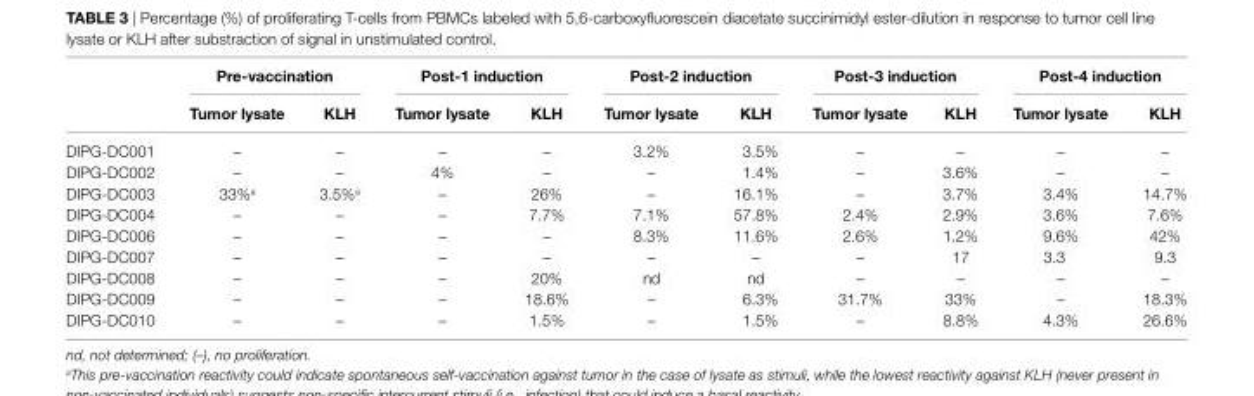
<table><thead><tr><td rowspan="2"></td><td colspan="2">Pre-vaccination</td><td colspan="2">Post-1 induction</td><td colspan="2">Post-2 induction</td><td colspan="2">Post-3 induction</td><td colspan="2">Post-4 induction</td></tr><tr><td>Tumor lysate</td><td>KlH</td><td>Tumor lysate</td><td>KlH</td><td>Tumor lysate</td><td>KlH</td><td>Tumor lysate</td><td>KlH</td><td>Tumor lysate</td><td>KlH</td></tr></thead><tbody><tr><td>DIPG-DC001</td><td>–</td><td>–</td><td>–</td><td>–</td><td>3.2%</td><td>3.5%</td><td>–</td><td>–</td><td>–</td><td>–</td></tr><tr><td>DIPG-DC002</td><td>–</td><td>–</td><td>4%</td><td>–</td><td>–</td><td>1.4%</td><td>–</td><td>3.6%</td><td>–</td><td>–</td></tr><tr><td>DIPG-DC003</td><td>33%<sup>a</sup></td><td>3.5%<sup>a</sup></td><td>–</td><td>26%</td><td>–</td><td>16.1%</td><td>–</td><td>3.7%</td><td>3.4%</td><td>14.7%</td></tr><tr><td>DIPG-DC004</td><td>–</td><td>–</td><td>–</td><td>7.7%</td><td>7.1%</td><td>57.8%</td><td>2.4%</td><td>2.9%</td><td>3.6%</td><td>7.6%</td></tr><tr><td>DIPG-DC006</td><td>–</td><td>–</td><td>–</td><td>–</td><td>8.3%</td><td>11.6%</td><td>2.6%</td><td>1.2%</td><td>9.6%</td><td>42%</td></tr><tr><td>DIPG-DC007</td><td>–</td><td>–</td><td>–</td><td>–</td><td>–</td><td>–</td><td>–</td><td>17</td><td>3.3</td><td>9.3</td></tr><tr><td>DIPG-DC008</td><td>–</td><td>–</td><td>–</td><td>20%</td><td>nd</td><td>nd</td><td>–</td><td>–</td><td>–</td><td>–</td></tr><tr><td>DIPG-DC009</td><td>–</td><td>–</td><td>–</td><td>18.6%</td><td>–</td><td>6.3%</td><td>31.7%</td><td>33%</td><td>–</td><td>18.3%</td></tr><tr><td>DIPG-DC010</td><td>–</td><td>–</td><td>–</td><td>1.5%</td><td>–</td><td>1.5%</td><td>–</td><td>8.8%</td><td>4.3%</td><td>26.6%</td></tr></tbody></table>